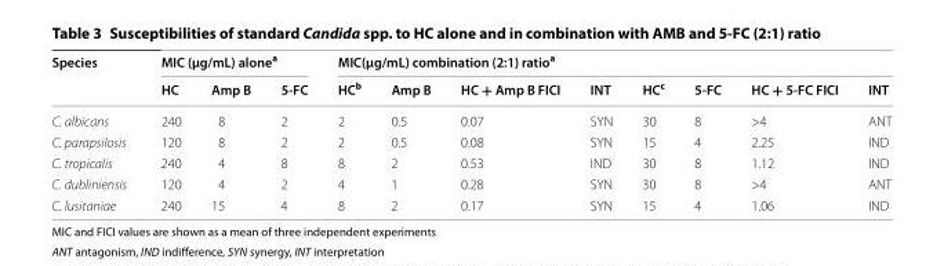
<table><thead><tr><td rowspan="2">Species</td><td colspan="3">MIC (µg/mL) alone<sup>a</sup></td><td colspan="8">MIC(µg/mL) combination (2:1) ratio<sup>a</sup></td></tr><tr><td>HC</td><td>Amp B</td><td>5‑FC</td><td>HC<sup>b</sup></td><td>Amp B</td><td>HC + Amp B FICI</td><td>INT</td><td>HC<sup>c</sup></td><td>5‑FC</td><td>HC + 5‑FC FICI</td><td>INT</td></tr></thead><tbody><tr><td>C. albicans</td><td>240</td><td>8</td><td>2</td><td>2</td><td>0.5</td><td>0.07</td><td>SYN</td><td>30</td><td>8</td><td>&gt;4</td><td>ANT</td></tr><tr><td>C. parapsilosis</td><td>120</td><td>8</td><td>2</td><td>2</td><td>0.5</td><td>0.08</td><td>SYN</td><td>15</td><td>4</td><td>2.25</td><td>IND</td></tr><tr><td>C. tropicalis</td><td>240</td><td>4</td><td>8</td><td>8</td><td>2</td><td>0.53</td><td>IND</td><td>30</td><td>8</td><td>1.12</td><td>IND</td></tr><tr><td>C. dubliniensis</td><td>120</td><td>4</td><td>2</td><td>4</td><td>1</td><td>0.28</td><td>SYN</td><td>30</td><td>8</td><td>&gt;4</td><td>ANT</td></tr><tr><td>C. lusitaniae</td><td>240</td><td>15</td><td>4</td><td>8</td><td>2</td><td>0.17</td><td>SYN</td><td>15</td><td>4</td><td>1.06</td><td>IND</td></tr></tbody></table>